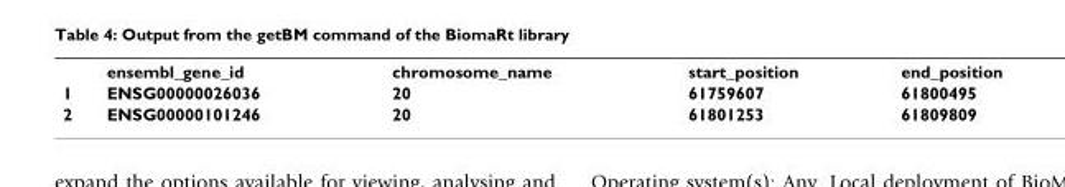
<table><thead><tr><td></td><td>ensembl_gene_id</td><td>chromosome_name</td><td>start_position</td><td>end_position</td></tr></thead><tbody><tr><td>1</td><td>ENSG00000026036</td><td>20</td><td>61759607</td><td>61800495</td></tr><tr><td>2</td><td>ENSG00000101246</td><td>20</td><td>61801253</td><td>61809809</td></tr></tbody></table>